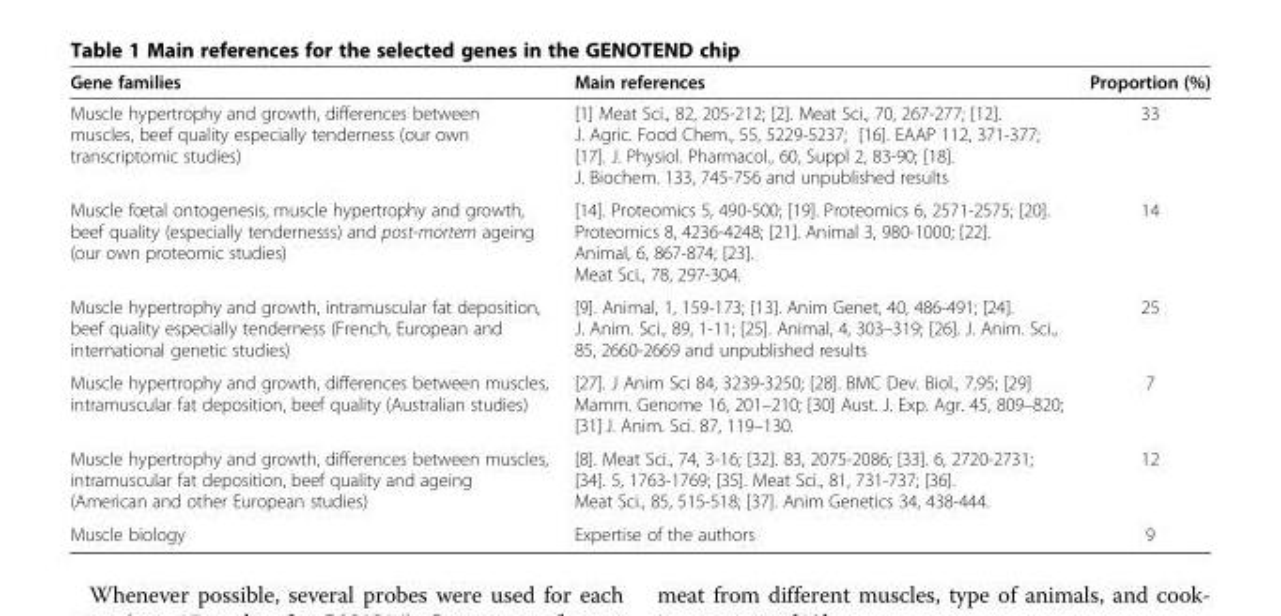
<table><thead><tr><td>Gene families</td><td>Main references</td><td>Proportion (%)</td></tr></thead><tbody><tr><td>Muscle hypertrophy and growth, differences between muscles, beef quality especially tenderness (our own transcriptomic studies)</td><td>[1] Meat Sci., 82, 205-212; [2]. Meat Sci., 70, 267-277; [12]. J. Agric. Food Chem., 55, 5229-5237; [16]. EAAP 112, 371-377; [17]. J. Physiol. Pharmacol., 60, Suppl 2, 83-90; [18]. J. Biochem. 133, 745-756 and unpublished results</td><td>33</td></tr><tr><td>Muscle fœtal ontogenesis, muscle hypertrophy and growth, beef quality (especially tendernesss) and post-mortem ageing (our own proteomic studies)</td><td>[14]. Proteomics 5, 490-500; [19]. Proteomics 6, 2571-2575; [20]. Proteomics 8, 4236-4248; [21]. Animal 3, 980-1000; [22]. Animal, 6, 867-874; [23]. Meat Sci., 78, 297-304.</td><td>14</td></tr><tr><td>Muscle hypertrophy and growth, intramuscular fat deposition, beef quality especially tenderness (French, European and international genetic studies)</td><td>[9]. Animal, 1, 159-173; [13]. Anim Genet, 40, 486-491; [24]. J. Anim. Sci., 89, 1-11; [25]. Animal, 4, 303–319; [26]. J. Anim. Sci., 85, 2660-2669 and unpublished results</td><td>25</td></tr><tr><td>Muscle hypertrophy and growth, differences between muscles, intramuscular fat deposition, beef quality (Australian studies)</td><td>[27]. J Anim Sci 84, 3239-3250; [28]. BMC Dev. Biol., 7,95; [29] Mamm. Genome 16, 201–210; [30] Aust. J. Exp. Agr. 45, 809–820; [31] J. Anim. Sci. 87, 119–130.</td><td>7</td></tr><tr><td>Muscle hypertrophy and growth, differences between muscles, intramuscular fat deposition, beef quality and ageing (American and other European studies)</td><td>[8]. Meat Sci., 74, 3-16; [32]. 83, 2075-2086; [33]. 6, 2720-2731; [34]. 5, 1763-1769; [35]. Meat Sci., 81, 731-737; [36]. Meat Sci., 85, 515-518; [37]. Anim Genetics 34, 438-444.</td><td>12</td></tr><tr><td>Muscle biology</td><td>Expertise of the authors</td><td>9</td></tr></tbody></table>